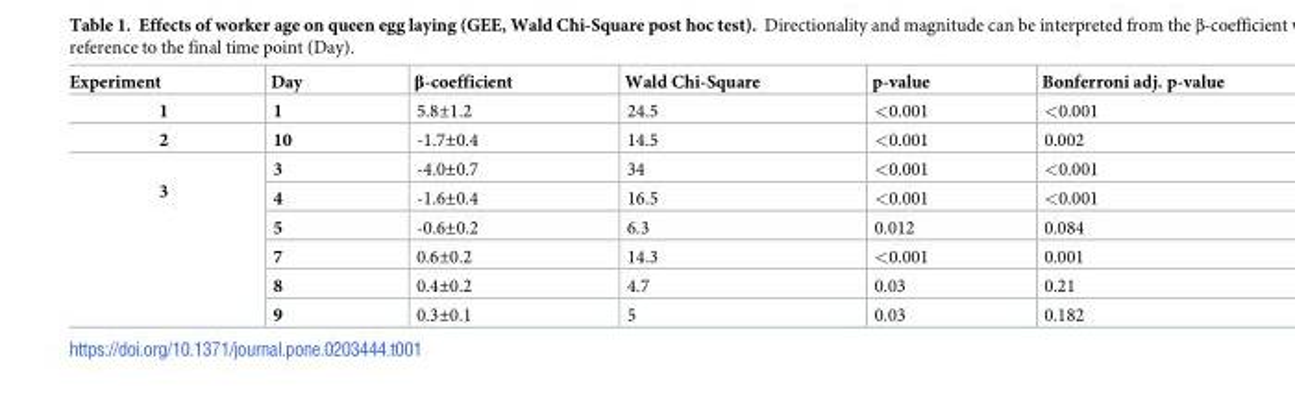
<table><thead><tr><td>Experiment</td><td>Day</td><td>β-coefficient</td><td>Wald Chi-Square</td><td>p-value</td><td>Bonferroni adj. p-value</td></tr></thead><tbody><tr><td>1</td><td>1</td><td>5.8±1.2</td><td>24.5</td><td>&lt;0.001</td><td>&lt;0.001</td></tr><tr><td>2</td><td>10</td><td>-1.7±0.4</td><td>14.5</td><td>&lt;0.001</td><td>0.002</td></tr><tr><td rowspan="6">3</td><td>3</td><td>-4.0±0.7</td><td>34</td><td>&lt;0.001</td><td>&lt;0.001</td></tr><tr><td>4</td><td>-1.6±0.4</td><td>16.5</td><td>&lt;0.001</td><td>&lt;0.001</td></tr><tr><td>5</td><td>-0.6±0.2</td><td>6.3</td><td>0.012</td><td>0.084</td></tr><tr><td>7</td><td>0.6±0.2</td><td>14.3</td><td>&lt;0.001</td><td>0.001</td></tr><tr><td>8</td><td>0.4±0.2</td><td>4.7</td><td>0.03</td><td>0.21</td></tr><tr><td>9</td><td>0.3±0.1</td><td>5</td><td>0.03</td><td>0.182</td></tr></tbody></table>